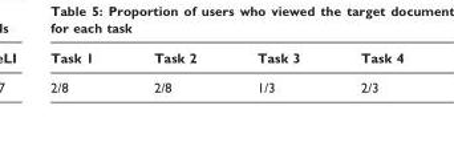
<table><thead><tr><td>Task 1</td><td>Task 2</td><td>Task 3</td><td>Task 4</td></tr></thead><tbody><tr><td>2/8</td><td>2/8</td><td>1/3</td><td>2/3</td></tr></tbody></table>